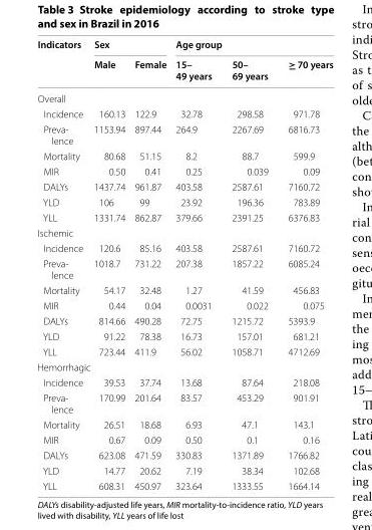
<table><thead><tr><td rowspan="2">Indicators</td><td colspan="2">Sex</td><td colspan="3">Age group</td></tr><tr><td>Male</td><td>Female</td><td>15– 49 years</td><td>50– 69 years</td><td>≥ 70 years</td></tr></thead><tbody><tr><td colspan="6">Overall</td></tr><tr><td>Incidence</td><td>160.13</td><td>122.9</td><td>32.78</td><td>298.58</td><td>971.78</td></tr><tr><td>Preva- lence</td><td>1153.94</td><td>897.44</td><td>264.9</td><td>2267.69</td><td>6816.73</td></tr><tr><td>Mortality</td><td>80.68</td><td>51.15</td><td>8.2</td><td>88.7</td><td>599.9</td></tr><tr><td>MIR</td><td>0.50</td><td>0.41</td><td>0.25</td><td>0.039</td><td>0.09</td></tr><tr><td>DALYs</td><td>1437.74</td><td>961.87</td><td>403.58</td><td>2587.61</td><td>7160.72</td></tr><tr><td>YLD</td><td>106</td><td>99</td><td>23.92</td><td>196.36</td><td>783.89</td></tr><tr><td>YLL</td><td>1331.74</td><td>862.87</td><td>379.66</td><td>2391.25</td><td>6376.83</td></tr><tr><td colspan="6">Ischemic</td></tr><tr><td>Incidence</td><td>120.6</td><td>85.16</td><td>403.58</td><td>2587.61</td><td>7160.72</td></tr><tr><td>Preva- lence</td><td>1018.7</td><td>731.22</td><td>207.38</td><td>1857.22</td><td>6085.24</td></tr><tr><td>Mortality</td><td>54.17</td><td>32.48</td><td>1.27</td><td>41.59</td><td>456.83</td></tr><tr><td>MIR</td><td>0.44</td><td>0.04</td><td>0.0031</td><td>0.022</td><td>0.075</td></tr><tr><td>DALYs</td><td>814.66</td><td>490.28</td><td>72.75</td><td>1215.72</td><td>5393.9</td></tr><tr><td>YLD</td><td>91.22</td><td>78.38</td><td>16.73</td><td>157.01</td><td>681.21</td></tr><tr><td>YLL</td><td>723.44</td><td>411.9</td><td>56.02</td><td>1058.71</td><td>4712.69</td></tr><tr><td colspan="6">Hemorrhagic</td></tr><tr><td>Incidence</td><td>39.53</td><td>37.74</td><td>13.68</td><td>87.64</td><td>218.08</td></tr><tr><td>Preva- lence</td><td>170.99</td><td>201.64</td><td>83.57</td><td>453.29</td><td>901.91</td></tr><tr><td>Mortality</td><td>26.51</td><td>18.68</td><td>6.93</td><td>47.1</td><td>143.1</td></tr><tr><td>MIR</td><td>0.67</td><td>0.09</td><td>0.50</td><td>0.1</td><td>0.16</td></tr><tr><td>DALYs</td><td>623.08</td><td>471.59</td><td>330.83</td><td>1371.89</td><td>1766.82</td></tr><tr><td>YLD</td><td>14.77</td><td>20.62</td><td>7.19</td><td>38.34</td><td>102.68</td></tr><tr><td>YLL</td><td>608.31</td><td>450.97</td><td>323.64</td><td>1333.55</td><td>1664.14</td></tr></tbody></table>